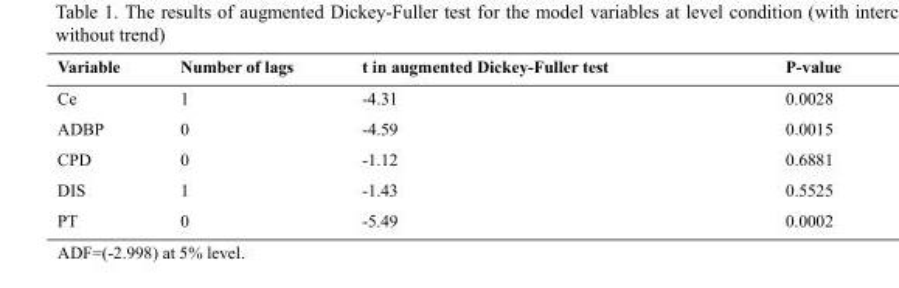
<table><thead><tr><td>Variable</td><td>Number of lags</td><td>t in augmented Dickey-Fuller test</td><td>P-value</td></tr></thead><tbody><tr><td>Ce</td><td>1</td><td>-4.31</td><td>0.0028</td></tr><tr><td>ADBP</td><td>0</td><td>-4.59</td><td>0.0015</td></tr><tr><td>CPD</td><td>0</td><td>-1.12</td><td>0.6881</td></tr><tr><td>DIS</td><td>1</td><td>-1.43</td><td>0.5525</td></tr><tr><td>PT</td><td>0</td><td>-5.49</td><td>0.0002</td></tr></tbody></table>